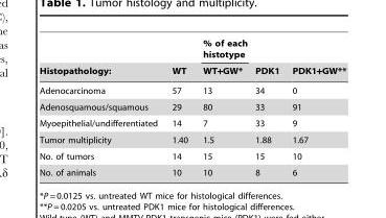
<table><thead><tr><td rowspan="2">Histopathology:</td><td rowspan="2">WT</td><td rowspan="2">% of each histotype WT+GW*</td><td rowspan="2">PDK1</td><td rowspan="2">PDK1+GW**</td></tr><tr></tr></thead><tbody><tr><td>Adenocarcinoma</td><td>57</td><td>13</td><td>34</td><td>0</td></tr><tr><td>Adenosquamous/squamous</td><td>29</td><td>80</td><td>33</td><td>91</td></tr><tr><td>Myoepithelial/undifferentiated</td><td>14</td><td>7</td><td>33</td><td>9</td></tr><tr><td>Tumor multiplicity</td><td>1.40</td><td>1.5</td><td>1.88</td><td>1.67</td></tr><tr><td>No. of tumors</td><td>14</td><td>15</td><td>15</td><td>10</td></tr><tr><td>No. of animals</td><td>10</td><td>10</td><td>8</td><td>6</td></tr></tbody></table>